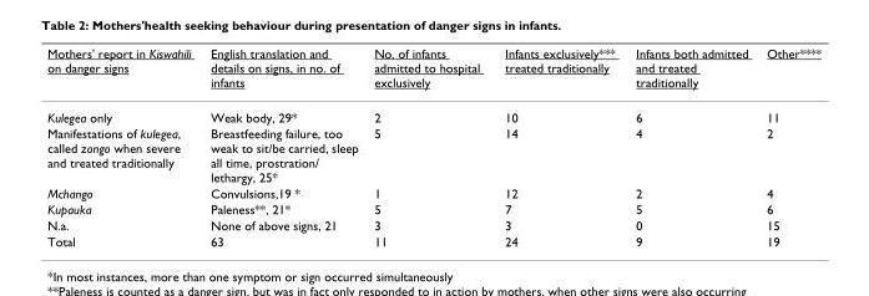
<table><thead><tr><td>Mothers&#x27; report in Kiswahili on danger signs</td><td>English translation and details on signs, in no. of infants</td><td>No. of infants admitted to hospital exclusively</td><td>Infants exclusively*** treated traditionally</td><td>Infants both admitted and treated traditionally</td><td>Other****</td></tr></thead><tbody><tr><td>Kulegea only</td><td>Weak body, 29*</td><td>2</td><td>10</td><td>6</td><td>11</td></tr><tr><td>Manifestations of kulegea, called zongo when severe and treated traditionally</td><td>Breastfeeding failure, too weak to sit/be carried, sleep all time, prostration/ lethargy, 25*</td><td>5</td><td>14</td><td>4</td><td>2</td></tr><tr><td>Mchango</td><td>Convulsions,19 *</td><td>1</td><td>12</td><td>2</td><td>4</td></tr><tr><td>Kupauka</td><td>Paleness**, 21*</td><td>5</td><td>7</td><td>5</td><td>6</td></tr><tr><td>N.a.</td><td>None of above signs, 21</td><td>3</td><td>3</td><td>0</td><td>15</td></tr><tr><td>Total</td><td>63</td><td>11</td><td>24</td><td>9</td><td>19</td></tr></tbody></table>